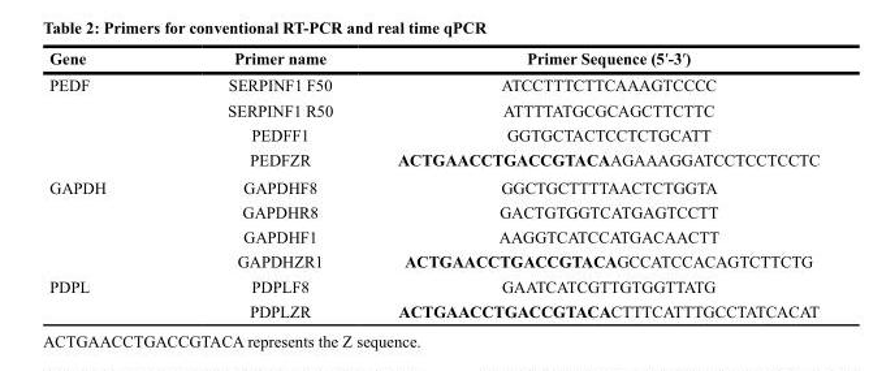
<table><thead><tr><td>Gene</td><td>Primer name</td><td>Primer Sequence (5′-3′)</td></tr></thead><tbody><tr><td rowspan="4">PEDF</td><td>SERPINF1 F50</td><td>ATCCTTTCTTCAAAGTCCCC</td></tr><tr><td>SERPINF1 R50</td><td>ATTTTATGCGCAGCTTCTTC</td></tr><tr><td>PEDFF1</td><td>GGTGCTACTCCTCTGCATT</td></tr><tr><td>PEDFZR</td><td>ACTGAACCTGACCGTACAAGAAAGGATCCTCCTCCTC</td></tr><tr><td rowspan="4">GAPDH</td><td>GAPDHF8</td><td>GGCTGCTTTTAACTCTGGTA</td></tr><tr><td>GAPDHR8</td><td>GACTGTGGTCATGAGTCCTT</td></tr><tr><td>GAPDHF1</td><td>AAGGTCATCCATGACAACTT</td></tr><tr><td>GAPDHZR1</td><td>ACTGAACCTGACCGTACAGCCATCCACAGTCTTCTG</td></tr><tr><td rowspan="2">PDPL</td><td>PDPLF8</td><td>GAATCATCGTTGTGGTTATG</td></tr><tr><td>PDPLZR</td><td>ACTGAACCTGACCGTACACTTTCATTTGCCTATCACAT</td></tr></tbody></table>